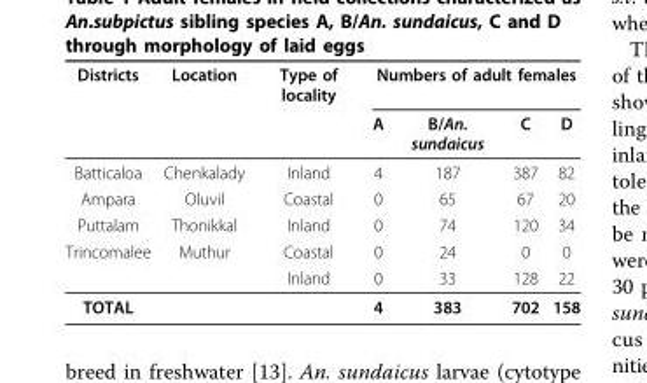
<table><thead><tr><td rowspan="2">Districts</td><td rowspan="2">Location</td><td rowspan="2">Type of locality</td><td colspan="4">Numbers of adult females</td></tr><tr><td>A</td><td>B/An. sundaicus</td><td>C</td><td>D</td></tr></thead><tbody><tr><td>Batticaloa</td><td>Chenkalady</td><td>Inland</td><td>4</td><td>187</td><td>387</td><td>82</td></tr><tr><td>Ampara</td><td>Oluvil</td><td>Coastal</td><td>0</td><td>65</td><td>67</td><td>20</td></tr><tr><td>Puttalam</td><td>Thonikkal</td><td>Inland</td><td>0</td><td>74</td><td>120</td><td>34</td></tr><tr><td rowspan="2">Trincomalee</td><td>Muthur</td><td>Coastal</td><td>0</td><td>24</td><td>0</td><td>0</td></tr><tr><td></td><td>Inland</td><td>0</td><td>33</td><td>128</td><td>22</td></tr><tr><td>TOTAL</td><td></td><td></td><td>4</td><td>383</td><td>702</td><td>158</td></tr></tbody></table>